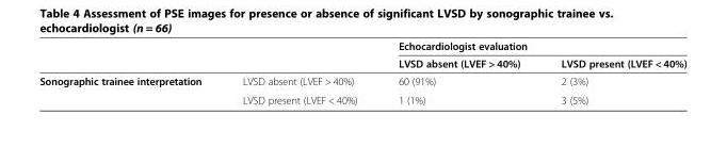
<table><thead><tr><td rowspan="2"></td><td rowspan="2"></td><td colspan="2">Echocardiologist evaluation</td></tr><tr><td>LVSD absent (LVEF &gt; 40%)</td><td>LVSD present (LVEF &lt; 40%)</td></tr></thead><tbody><tr><td rowspan="2">Sonographic trainee interpretation</td><td>LVSD absent (LVEF &gt; 40%)</td><td>60 (91%)</td><td>2 (3%)</td></tr><tr><td>LVSD present (LVEF &lt; 40%)</td><td>1 (1%)</td><td>3 (5%)</td></tr></tbody></table>